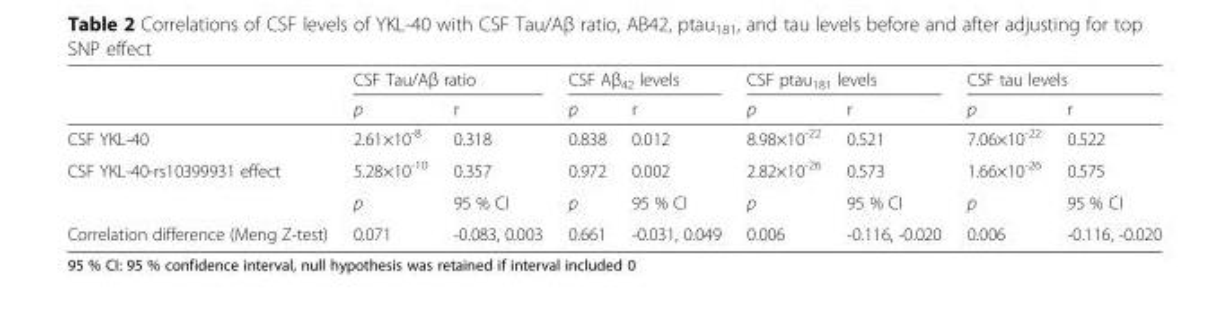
<table><thead><tr><td rowspan="2"></td><td colspan="2">CSF Tau/Aβ ratio</td><td colspan="2">CSF Aβ<sub>42</sub> levels</td><td colspan="2">CSF ptau<sub>181</sub> levels</td><td colspan="2">CSF tau levels</td></tr><tr><td>p</td><td>r</td><td>p</td><td>r</td><td>p</td><td>r</td><td>p</td><td>r</td></tr></thead><tbody><tr><td>CSF YKL-40</td><td>2.61×10<sup>-8</sup></td><td>0.318</td><td>0.838</td><td>0.012</td><td>8.98×10<sup>-22</sup></td><td>0.521</td><td>7.06×10<sup>-22</sup></td><td>0.522</td></tr><tr><td rowspan="2">CSF YKL-40-rs10399931 effect</td><td>5.28×10<sup>-10</sup></td><td>0.357</td><td>0.972</td><td>0.002</td><td>2.82×10<sup>-26</sup></td><td>0.573</td><td>1.66×10<sup>-26</sup></td><td>0.575</td></tr><tr><td>p</td><td>95 % CI</td><td>p</td><td>95 % CI</td><td>p</td><td>95 % CI</td><td>p</td><td>95 % CI</td></tr><tr><td>Correlation difference (Meng Z-test)</td><td>0.071</td><td>-0.083, 0.003</td><td>0.661</td><td>-0.031, 0.049</td><td>0.006</td><td>-0.116, -0.020</td><td>0.006</td><td>-0.116, -0.020</td></tr></tbody></table>